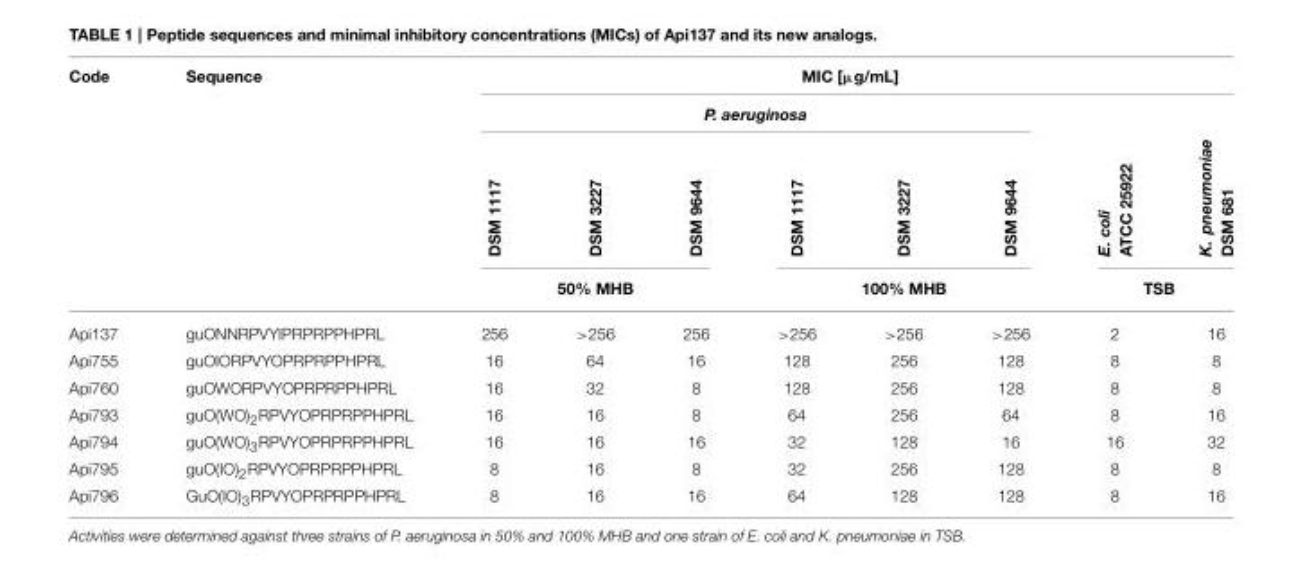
<table><thead><tr><td rowspan="4">Code</td><td rowspan="4">Sequence</td><td colspan="8">MIC [µg/mL]</td></tr><tr><td colspan="6">P. aeruginosa</td><td rowspan="2">E. coli ATCC 25922</td><td rowspan="2">K. pneumoniae DSM 681</td></tr><tr><td>DSM 1117</td><td>DSM 3227</td><td>DSM 9644</td><td>DSM 1117</td><td>DSM 3227</td><td>DSM 9644</td></tr><tr><td colspan="3">50% MHB</td><td colspan="3">100% MHB</td><td colspan="2">TSB</td></tr></thead><tbody><tr><td>Api137</td><td>guONNRPVYIPRPRPPHPRL</td><td>256</td><td>&gt;256</td><td>256</td><td>&gt;256</td><td>&gt;256</td><td>&gt;256</td><td>2</td><td>16</td></tr><tr><td>Api755</td><td>guOIORPVYOPRPRPPHPRL</td><td>16</td><td>64</td><td>16</td><td>128</td><td>256</td><td>128</td><td>8</td><td>8</td></tr><tr><td>Api760</td><td>guOWORPVYOPRPRPPHPRL</td><td>16</td><td>32</td><td>8</td><td>128</td><td>256</td><td>128</td><td>8</td><td>8</td></tr><tr><td>Api793</td><td>guO(WO)<sub>2</sub>RPVYOPRPRPPHPRL</td><td>16</td><td>16</td><td>8</td><td>64</td><td>256</td><td>64</td><td>8</td><td>16</td></tr><tr><td>Api794</td><td>guO(WO)<sub>3</sub>RPVYOPRPRPPHPRL</td><td>16</td><td>16</td><td>16</td><td>32</td><td>128</td><td>16</td><td>16</td><td>32</td></tr><tr><td>Api795</td><td>guO(IO)<sub>2</sub>RPVYOPRPRPPHPRL</td><td>8</td><td>16</td><td>8</td><td>32</td><td>256</td><td>128</td><td>8</td><td>8</td></tr><tr><td>Api796</td><td>GuO(IO)<sub>3</sub>RPVYOPRPRPPHPRL</td><td>8</td><td>16</td><td>16</td><td>64</td><td>128</td><td>128</td><td>8</td><td>16</td></tr></tbody></table>